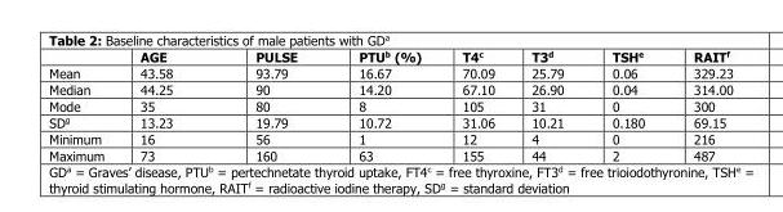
<table><thead><tr><td></td><td>AGE</td><td>PULSE</td><td>PTU<sup>b</sup> (%)</td><td>T4<sup>c</sup></td><td>T3<sup>d</sup></td><td>TSH<sup>e</sup></td><td>RAIT<sup>f</sup></td></tr></thead><tbody><tr><td>Mean</td><td>43.58</td><td>93.79</td><td>16.67</td><td>70.09</td><td>25.79</td><td>0.06</td><td>329.23</td></tr><tr><td>Median</td><td>44.25</td><td>90</td><td>14.20</td><td>67.10</td><td>26.90</td><td>0.04</td><td>314.00</td></tr><tr><td>Mode</td><td>35</td><td>80</td><td>8</td><td>105</td><td>31</td><td>0</td><td>300</td></tr><tr><td>SD<sup>g</sup></td><td>13.23</td><td>19.79</td><td>10.72</td><td>31.06</td><td>10.21</td><td>0.180</td><td>69.15</td></tr><tr><td>Minimum</td><td>16</td><td>56</td><td>1</td><td>12</td><td>4</td><td>0</td><td>216</td></tr><tr><td>Maximum</td><td>73</td><td>160</td><td>63</td><td>155</td><td>44</td><td>2</td><td>487</td></tr></tbody></table>